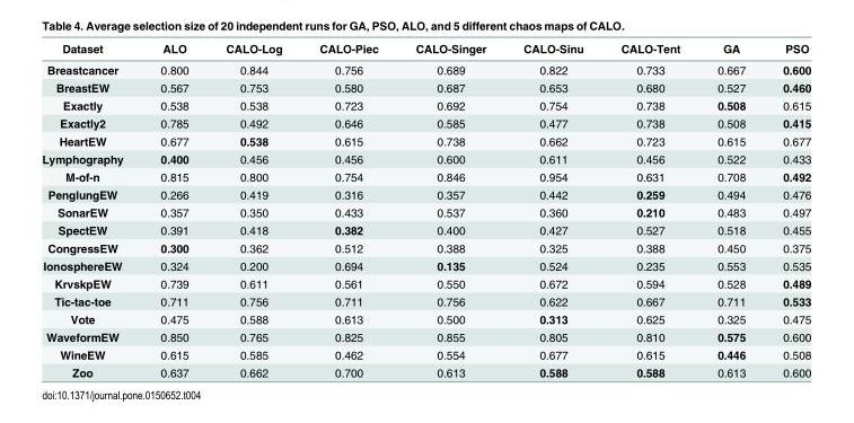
<table><thead><tr><td>Dataset</td><td>ALO</td><td>CALO-Log</td><td>CALO-Piec</td><td>CALO-Singer</td><td>CALO-Sinu</td><td>CALO-Tent</td><td>GA</td><td>PSO</td></tr></thead><tbody><tr><td>Breastcancer</td><td>0.800</td><td>0.844</td><td>0.756</td><td>0.689</td><td>0.822</td><td>0.733</td><td>0.667</td><td>0.600</td></tr><tr><td>BreastEW</td><td>0.567</td><td>0.753</td><td>0.580</td><td>0.687</td><td>0.653</td><td>0.680</td><td>0.527</td><td>0.460</td></tr><tr><td>Exactly</td><td>0.538</td><td>0.538</td><td>0.723</td><td>0.692</td><td>0.754</td><td>0.738</td><td>0.508</td><td>0.615</td></tr><tr><td>Exactly2</td><td>0.785</td><td>0.492</td><td>0.646</td><td>0.585</td><td>0.477</td><td>0.738</td><td>0.508</td><td>0.415</td></tr><tr><td>HeartEW</td><td>0.677</td><td>0.538</td><td>0.615</td><td>0.738</td><td>0.662</td><td>0.723</td><td>0.615</td><td>0.677</td></tr><tr><td>Lymphography</td><td>0.400</td><td>0.456</td><td>0.456</td><td>0.600</td><td>0.611</td><td>0.456</td><td>0.522</td><td>0.433</td></tr><tr><td>M-of-n</td><td>0.815</td><td>0.800</td><td>0.754</td><td>0.846</td><td>0.954</td><td>0.631</td><td>0.708</td><td>0.492</td></tr><tr><td>PenglungEW</td><td>0.266</td><td>0.419</td><td>0.316</td><td>0.357</td><td>0.442</td><td>0.259</td><td>0.494</td><td>0.476</td></tr><tr><td>SonarEW</td><td>0.357</td><td>0.350</td><td>0.433</td><td>0.537</td><td>0.360</td><td>0.210</td><td>0.483</td><td>0.497</td></tr><tr><td>SpectEW</td><td>0.391</td><td>0.418</td><td>0.382</td><td>0.400</td><td>0.427</td><td>0.527</td><td>0.518</td><td>0.455</td></tr><tr><td>CongressEW</td><td>0.300</td><td>0.362</td><td>0.512</td><td>0.388</td><td>0.325</td><td>0.388</td><td>0.450</td><td>0.375</td></tr><tr><td>IonosphereEW</td><td>0.324</td><td>0.200</td><td>0.694</td><td>0.135</td><td>0.524</td><td>0.235</td><td>0.553</td><td>0.535</td></tr><tr><td>KrvskpEW</td><td>0.739</td><td>0.611</td><td>0.561</td><td>0.550</td><td>0.672</td><td>0.594</td><td>0.528</td><td>0.489</td></tr><tr><td>Tic-tac-toe</td><td>0.711</td><td>0.756</td><td>0.711</td><td>0.756</td><td>0.622</td><td>0.667</td><td>0.711</td><td>0.533</td></tr><tr><td>Vote</td><td>0.475</td><td>0.588</td><td>0.613</td><td>0.500</td><td>0.313</td><td>0.625</td><td>0.325</td><td>0.475</td></tr><tr><td>WaveformEW</td><td>0.850</td><td>0.765</td><td>0.825</td><td>0.855</td><td>0.805</td><td>0.810</td><td>0.575</td><td>0.600</td></tr><tr><td>WineEW</td><td>0.615</td><td>0.585</td><td>0.462</td><td>0.554</td><td>0.677</td><td>0.615</td><td>0.446</td><td>0.508</td></tr><tr><td>Zoo</td><td>0.637</td><td>0.662</td><td>0.700</td><td>0.613</td><td>0.588</td><td>0.588</td><td>0.613</td><td>0.600</td></tr></tbody></table>